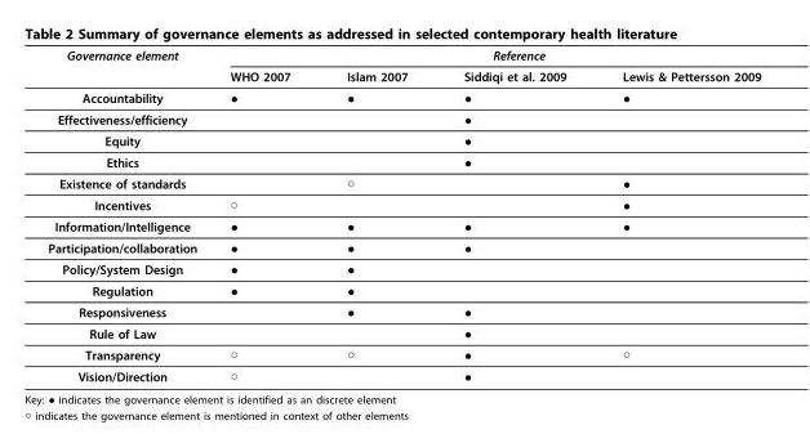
<table><thead><tr><td rowspan="2">Governance element</td><td colspan="4">Reference</td></tr><tr><td>WHO 2007</td><td>Islam 2007</td><td>Siddiqi et al. 2009</td><td>Lewis &amp; Pettersson 2009</td></tr></thead><tbody><tr><td>Accountability</td><td>●</td><td>●</td><td>●</td><td>●</td></tr><tr><td>Effectiveness/efficiency</td><td></td><td></td><td>●</td><td></td></tr><tr><td>Equity</td><td></td><td></td><td>●</td><td></td></tr><tr><td>Ethics</td><td></td><td></td><td>●</td><td></td></tr><tr><td>Existence of standards</td><td></td><td>○</td><td></td><td>●</td></tr><tr><td>Incentives</td><td>○</td><td></td><td></td><td>●</td></tr><tr><td>Information/Intelligence</td><td>●</td><td>●</td><td>●</td><td>●</td></tr><tr><td>Participation/collaboration</td><td>●</td><td>●</td><td>●</td><td></td></tr><tr><td>Policy/System Design</td><td>●</td><td>●</td><td></td><td></td></tr><tr><td>Regulation</td><td>●</td><td>●</td><td></td><td></td></tr><tr><td>Responsiveness</td><td></td><td>●</td><td>●</td><td></td></tr><tr><td>Rule of Law</td><td></td><td></td><td>●</td><td></td></tr><tr><td>Transparency</td><td>○</td><td>○</td><td>●</td><td>○</td></tr><tr><td>Vision/Direction</td><td>○</td><td></td><td>●</td><td></td></tr></tbody></table>